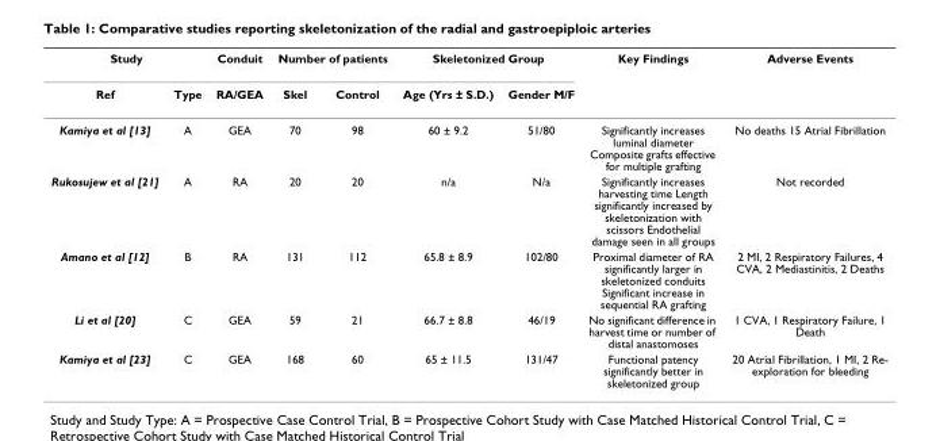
<table><thead><tr><td colspan="2">Study</td><td rowspan="2">Conduit RA/GEA</td><td colspan="2">Number of patients</td><td colspan="2">Skeletonized Group</td><td rowspan="2">Key Findings</td><td rowspan="2">Adverse Events</td></tr><tr><td>Ref</td><td>Type</td><td>Skel</td><td>Control</td><td>Age (Yrs ± S.D.)</td><td>Gender M/F</td></tr></thead><tbody><tr><td>Kamiya et al [13]</td><td>A</td><td>GEA</td><td>70</td><td>98</td><td>60 ± 9.2</td><td>51/80</td><td>Significantly increases luminal diameter Composite grafts effective for multiple grafting</td><td>No deaths 15 Atrial Fibrillation</td></tr><tr><td>Rukosujew et al [21]</td><td>A</td><td>RA</td><td>20</td><td>20</td><td>n/a</td><td>N/a</td><td>Significantly increases harvesting time Length significantly increased by skeletonization with scissors Endothelial damage seen in all groups</td><td>Not recorded</td></tr><tr><td>Amano et al [12]</td><td>B</td><td>RA</td><td>131</td><td>112</td><td>65.8 ± 8.9</td><td>102/80</td><td>Proximal diameter of RA significantly larger in skeletonized conduits Significant increase in sequential RA grafting</td><td>2 MI, 2 Respiratory Failures, 4 CVA, 2 Mediastinitis, 2 Deaths</td></tr><tr><td>Li et al [20]</td><td>C</td><td>GEA</td><td>59</td><td>21</td><td>66.7 ± 8.8</td><td>46/19</td><td>No significant difference in harvest time or number of distal anastomoses</td><td>1 CVA, 1 Respiratory Failure, 1 Death</td></tr><tr><td>Kamiya et al [23]</td><td>C</td><td>GEA</td><td>168</td><td>60</td><td>65 ± 11.5</td><td>131/47</td><td>Functional patency significantly better in skeletonized group</td><td>20 Atrial Fibrillation, 1 MI, 2 Re- exploration for bleeding</td></tr></tbody></table>